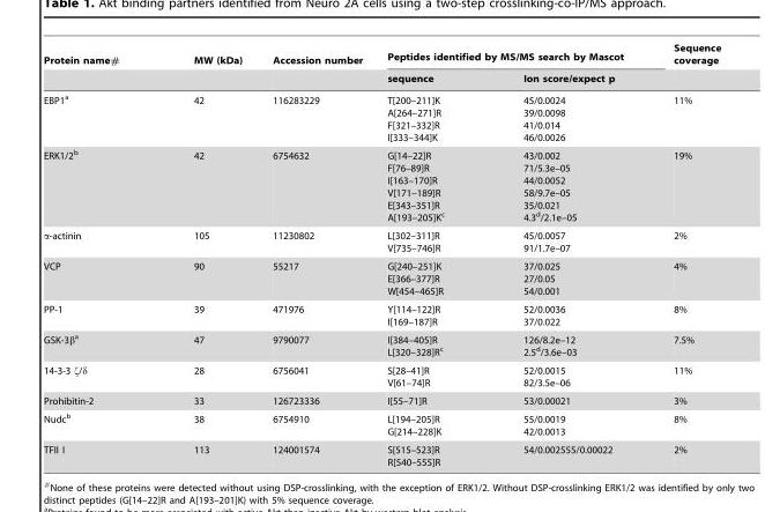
<table><thead><tr><td rowspan="2">Protein name#</td><td rowspan="2">MW (kDa)</td><td rowspan="2">Accession number</td><td colspan="2">Peptides identified by MS/MS search by Mascot</td><td rowspan="2">Sequence coverage</td></tr><tr><td>sequence</td><td>Ion score/expect p</td></tr></thead><tbody><tr><td>EBP1<sup>a</sup></td><td>42</td><td>116283229</td><td>T[200–211]K A[264–271]R F[321–332]R I[333–344]K</td><td>45/0.0024 39/0.0098 41/0.014 46/0.0026</td><td>11%</td></tr><tr><td>ERK1/2<sup>b</sup></td><td>42</td><td>6754632</td><td>G[14–22]R F[76–89]R I[163–170]R V[171–189]R E[343–351]R A[193–205]Kc</td><td>43/0.002 71/5.3e–05 44/0.0052 58/9.7e–05 35/0.021 4.3<sup>d</sup>/2.1e–05</td><td>19%</td></tr><tr><td>α-actinin</td><td>105</td><td>11230802</td><td>L[302–311]R V[735–746]R</td><td>45/0.0057 91/1.7e–07</td><td>2%</td></tr><tr><td>VCP</td><td>90</td><td>55217</td><td>G[240–251]K E[366–377]R W[454–465]R</td><td>37/0.025 27/0.05 54/0.001</td><td>4%</td></tr><tr><td>PP-1</td><td>39</td><td>471976</td><td>Y[114–122]R I[169–187]R</td><td>52/0.0036 37/0.022</td><td>8%</td></tr><tr><td>GSK-3β<sup>a</sup></td><td>47</td><td>9790077</td><td>I[384–405]R L[320–328]R<sup>c</sup></td><td>126/8.2e–12 2.5<sup>d</sup>/3.6e–03</td><td>7.5%</td></tr><tr><td>14-3-3 ζ/δ</td><td>28</td><td>6756041</td><td>S[28–41]R V[61–74]R</td><td>52/0.0015 82/3.5e–06</td><td>11%</td></tr><tr><td>Prohibitin-2</td><td>33</td><td>126723336</td><td>I[55–71]R</td><td>53/0.00021</td><td>3%</td></tr><tr><td>Nudc<sup>b</sup></td><td>38</td><td>6754910</td><td>L[194–205]R G[214–228]K</td><td>55/0.0019 42/0.0013</td><td>8%</td></tr><tr><td>TFII I</td><td>113</td><td>124001574</td><td>S[515–523]R R[540–555]R</td><td>54/0.002555/0.00022</td><td>2%</td></tr></tbody></table>